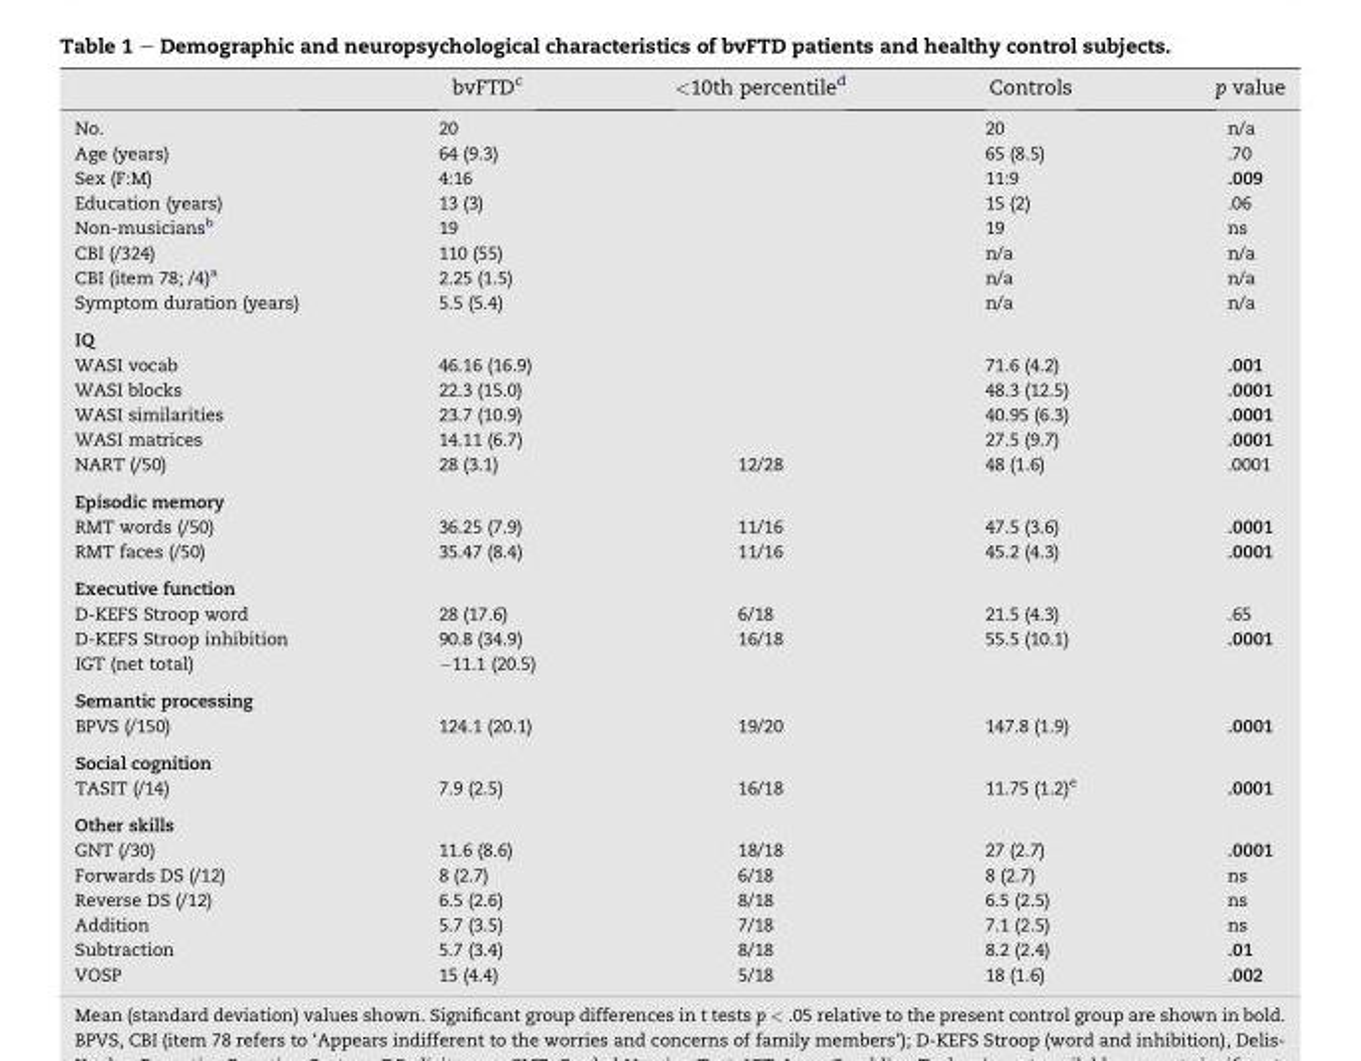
<table><thead><tr><td></td><td>bvFTD<sup>c</sup></td><td>&lt;10th percentile<sup>d</sup></td><td>Controls</td><td>p value</td></tr></thead><tbody><tr><td>No.</td><td>20</td><td></td><td>20</td><td>n/a</td></tr><tr><td>Age (years)</td><td>64 (9.3)</td><td></td><td>65 (8.5)</td><td>.70</td></tr><tr><td>Sex (F:M)</td><td>4:16</td><td></td><td>11:9</td><td>.009</td></tr><tr><td>Education (years)</td><td>13 (3)</td><td></td><td>15 (2)</td><td>.06</td></tr><tr><td>Non-musicians<sup>b</sup></td><td>19</td><td></td><td>19</td><td>ns</td></tr><tr><td>CBI (/324)</td><td>110 (55)</td><td></td><td>n/a</td><td>n/a</td></tr><tr><td>CBI (item 78; /4)<sup>a</sup></td><td>2.25 (1.5)</td><td></td><td>n/a</td><td>n/a</td></tr><tr><td>Symptom duration (years)</td><td>5.5 (5.4)</td><td></td><td>n/a</td><td>n/a</td></tr><tr><td colspan="5">IQ</td></tr><tr><td>WASI vocab</td><td>46.16 (16.9)</td><td></td><td>71.6 (4.2)</td><td>.001</td></tr><tr><td>WASI blocks</td><td>22.3 (15.0)</td><td></td><td>48.3 (12.5)</td><td>.0001</td></tr><tr><td>WASI similarities</td><td>23.7 (10.9)</td><td></td><td>40.95 (6.3)</td><td>.0001</td></tr><tr><td>WASI matrices</td><td>14.11 (6.7)</td><td></td><td>27.5 (9.7)</td><td>.0001</td></tr><tr><td>NART (/50)</td><td>28 (3.1)</td><td>12/28</td><td>48 (1.6)</td><td>.0001</td></tr><tr><td colspan="5">Episodic memory</td></tr><tr><td>RMT words (/50)</td><td>36.25 (7.9)</td><td>11/16</td><td>47.5 (3.6)</td><td>.0001</td></tr><tr><td>RMT faces (/50)</td><td>35.47 (8.4)</td><td>11/16</td><td>45.2 (4.3)</td><td>.0001</td></tr><tr><td colspan="5">Executive function</td></tr><tr><td>D-KEFS Stroop word</td><td>28 (17.6)</td><td>6/18</td><td>21.5 (4.3)</td><td>.65</td></tr><tr><td>D-KEFS Stroop inhibition</td><td>90.8 (34.9)</td><td>16/18</td><td>55.5 (10.1)</td><td>.0001</td></tr><tr><td>IGT (net total)</td><td>−11.1 (20.5)</td><td></td><td></td><td></td></tr><tr><td colspan="5">Semantic processing</td></tr><tr><td>BPVS (/150)</td><td>124.1 (20.1)</td><td>19/20</td><td>147.8 (1.9)</td><td>.0001</td></tr><tr><td colspan="5">Social cognition</td></tr><tr><td>TASIT (/14)</td><td>7.9 (2.5)</td><td>16/18</td><td>11.75 (1.2)<sup>e</sup></td><td>.0001</td></tr><tr><td colspan="5">Other skills</td></tr><tr><td>GNT (/30)</td><td>11.6 (8.6)</td><td>18/18</td><td>27 (2.7)</td><td>.0001</td></tr><tr><td>Forwards DS (/12)</td><td>8 (2.7)</td><td>6/18</td><td>8 (2.7)</td><td>ns</td></tr><tr><td>Reverse DS (/12)</td><td>6.5 (2.6)</td><td>8/18</td><td>6.5 (2.5)</td><td>ns</td></tr><tr><td>Addition</td><td>5.7 (3.5)</td><td>7/18</td><td>7.1 (2.5)</td><td>ns</td></tr><tr><td>Subtraction</td><td>5.7 (3.4)</td><td>8/18</td><td>8.2 (2.4)</td><td>.01</td></tr><tr><td>VOSP</td><td>15 (4.4)</td><td>5/18</td><td>18 (1.6)</td><td>.002</td></tr></tbody></table>